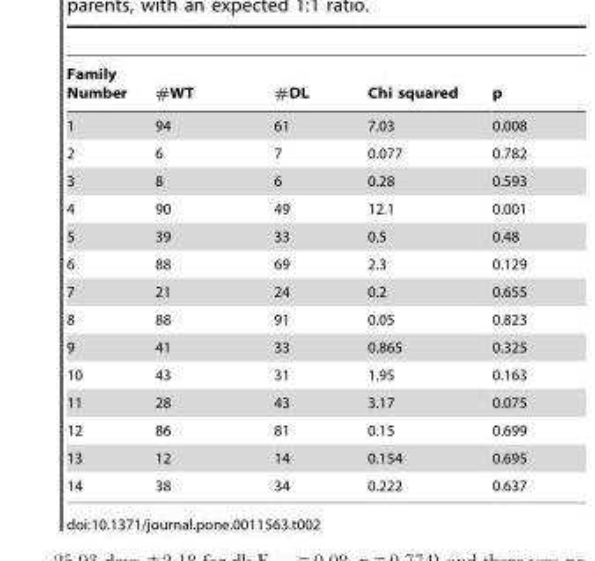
<table><thead><tr><td>Family Number</td><td>#WT</td><td>#DL</td><td>Chi squared</td><td>p</td></tr></thead><tbody><tr><td>1</td><td>94</td><td>61</td><td>7.03</td><td>0.008</td></tr><tr><td>2</td><td>6</td><td>7</td><td>0.077</td><td>0.782</td></tr><tr><td>3</td><td>8</td><td>6</td><td>0.28</td><td>0.593</td></tr><tr><td>4</td><td>90</td><td>49</td><td>12.1</td><td>0.001</td></tr><tr><td>5</td><td>39</td><td>33</td><td>0.5</td><td>0.48</td></tr><tr><td>6</td><td>88</td><td>69</td><td>2.3</td><td>0.129</td></tr><tr><td>7</td><td>21</td><td>24</td><td>0.2</td><td>0.655</td></tr><tr><td>8</td><td>88</td><td>91</td><td>0.05</td><td>0.823</td></tr><tr><td>9</td><td>41</td><td>33</td><td>0.865</td><td>0.325</td></tr><tr><td>10</td><td>43</td><td>31</td><td>1.95</td><td>0.163</td></tr><tr><td>11</td><td>28</td><td>43</td><td>3.17</td><td>0.075</td></tr><tr><td>12</td><td>86</td><td>81</td><td>0.15</td><td>0.699</td></tr><tr><td>13</td><td>12</td><td>14</td><td>0.154</td><td>0.695</td></tr><tr><td>14</td><td>38</td><td>34</td><td>0.222</td><td>0.637</td></tr></tbody></table>